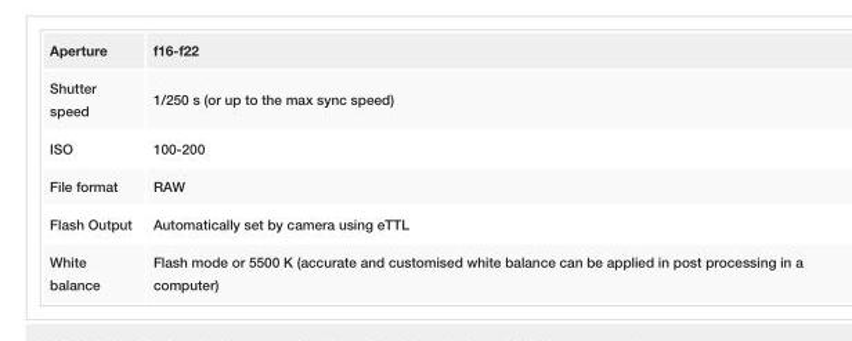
<table><tbody><tr><td>Aperture</td><td>f16-f22</td></tr><tr><td>Shutter speed</td><td>1/250 s (or up to the max sync speed)</td></tr><tr><td>ISO</td><td>100-200</td></tr><tr><td>File format</td><td>RAW</td></tr><tr><td>Flash Output</td><td>Automatically set by camera using eTTL</td></tr><tr><td>White balance</td><td>Flash mode or 5500 K (accurate and customised white balance can be applied in post processing in a computer)</td></tr></tbody></table>